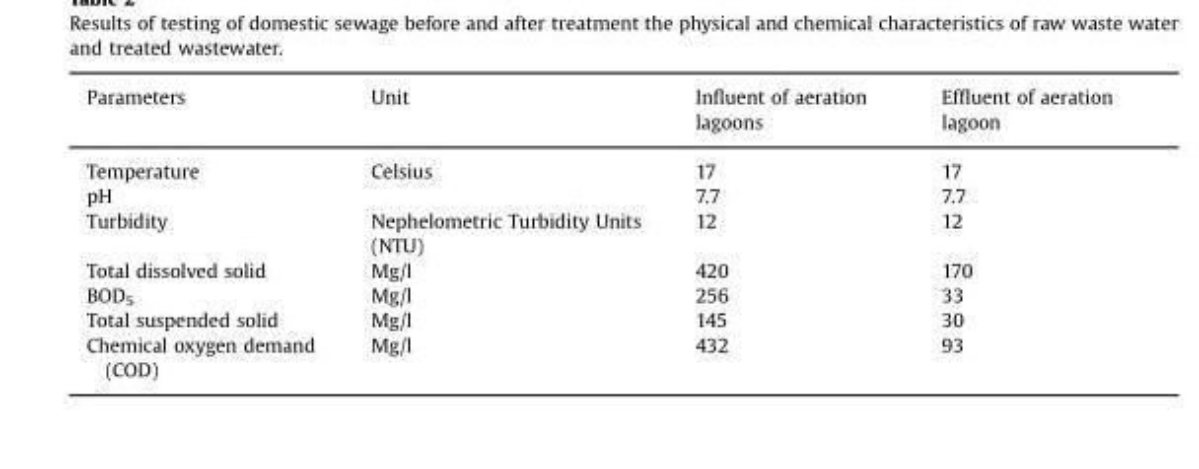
<table><tbody><tr><td>Parameters</td><td>Unit</td><td>Influent of aeration lagoons</td><td>Effluent of aeration lagoon</td></tr><tr><td>Temperature</td><td>Celsius</td><td>17</td><td>17</td></tr><tr><td>pH</td><td></td><td>7.7</td><td>7.7</td></tr><tr><td>Turbidity</td><td>Nephelometric Turbidity Units (NTU)</td><td>12</td><td>12</td></tr><tr><td>Total dissolved solid</td><td>Mg/l</td><td>420</td><td>170</td></tr><tr><td>BOD<sub>5</sub></td><td>Mg/l</td><td>256</td><td>33</td></tr><tr><td>Total suspended solid</td><td>Mg/l</td><td>145</td><td>30</td></tr><tr><td>Chemical oxygen demand (COD)</td><td>Mg/l</td><td>432</td><td>93</td></tr></tbody></table>